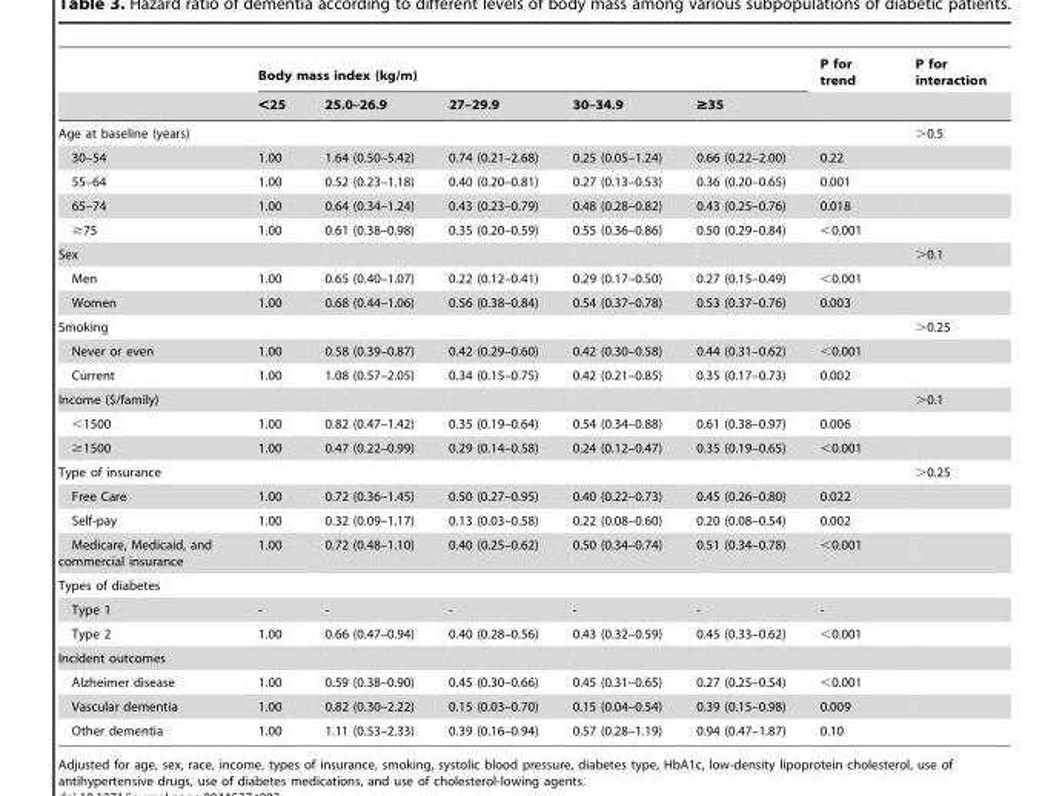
<table><thead><tr><td rowspan="2"></td><td colspan="5">Body mass index (kg/m)</td><td rowspan="2">P for trend</td><td rowspan="2">P for interaction</td></tr><tr><td>&lt;25</td><td>25.0–26.9</td><td>27–29.9</td><td>30–34.9</td><td>≥35</td></tr></thead><tbody><tr><td>Age at baseline (years)</td><td></td><td></td><td></td><td></td><td></td><td></td><td>&gt;0.5</td></tr><tr><td>30–54</td><td>1.00</td><td>1.64 (0.50–5.42)</td><td>0.74 (0.21–2.68)</td><td>0.25 (0.05–1.24)</td><td>0.66 (0.22–2.00)</td><td>0.22</td><td></td></tr><tr><td>55–64</td><td>1.00</td><td>0.52 (0.23–1.18)</td><td>0.40 (0.20–0.81)</td><td>0.27 (0.13–0.53)</td><td>0.36 (0.20–0.65)</td><td>0.001</td><td></td></tr><tr><td>65–74</td><td>1.00</td><td>0.64 (0.34–1.24)</td><td>0.43 (0.23–0.79)</td><td>0.48 (0.28–0.82)</td><td>0.43 (0.25–0.76)</td><td>0.018</td><td></td></tr><tr><td>≥75</td><td>1.00</td><td>0.61 (0.38–0.98)</td><td>0.35 (0.20–0.59)</td><td>0.55 (0.36–0.86)</td><td>0.50 (0.29–0.84)</td><td>&lt;0.001</td><td></td></tr><tr><td>Sex</td><td></td><td></td><td></td><td></td><td></td><td></td><td>&gt;0.1</td></tr><tr><td>Men</td><td>1.00</td><td>0.65 (0.40–1.07)</td><td>0.22 (0.12–0.41)</td><td>0.29 (0.17–0.50)</td><td>0.27 (0.15–0.49)</td><td>&lt;0.001</td><td></td></tr><tr><td>Women</td><td>1.00</td><td>0.68 (0.44–1.06)</td><td>0.56 (0.38–0.84)</td><td>0.54 (0.37–0.78)</td><td>0.53 (0.37–0.76)</td><td>0.003</td><td></td></tr><tr><td>Smoking</td><td></td><td></td><td></td><td></td><td></td><td></td><td>&gt;0.25</td></tr><tr><td>Never or even</td><td>1.00</td><td>0.58 (0.39–0.87)</td><td>0.42 (0.29–0.60)</td><td>0.42 (0.30–0.58)</td><td>0.44 (0.31–0.62)</td><td>&lt;0.001</td><td></td></tr><tr><td>Current</td><td>1.00</td><td>1.08 (0.57–2.05)</td><td>0.34 (0.15–0.75)</td><td>0.42 (0.21–0.85)</td><td>0.35 (0.17–0.73)</td><td>0.002</td><td></td></tr><tr><td>Income ($/family)</td><td></td><td></td><td></td><td></td><td></td><td></td><td>&gt;0.1</td></tr><tr><td>&lt;1500</td><td>1.00</td><td>0.82 (0.47–1.42)</td><td>0.35 (0.19–0.64)</td><td>0.54 (0.34–0.88)</td><td>0.61 (0.38–0.97)</td><td>0.006</td><td></td></tr><tr><td>≥1500</td><td>1.00</td><td>0.47 (0.22–0.99)</td><td>0.29 (0.14–0.58)</td><td>0.24 (0.12–0.47)</td><td>0.35 (0.19–0.65)</td><td>&lt;0.001</td><td></td></tr><tr><td>Type of insurance</td><td></td><td></td><td></td><td></td><td></td><td></td><td>&gt;0.25</td></tr><tr><td>Free Care</td><td>1.00</td><td>0.72 (0.36–1.45)</td><td>0.50 (0.27–0.95)</td><td>0.40 (0.22–0.73)</td><td>0.45 (0.26–0.80)</td><td>0.022</td><td></td></tr><tr><td>Self-pay</td><td>1.00</td><td>0.32 (0.09–1.17)</td><td>0.13 (0.03–0.58)</td><td>0.22 (0.08–0.60)</td><td>0.20 (0.08–0.54)</td><td>0.002</td><td></td></tr><tr><td>Medicare, Medicaid, and commercial insurance</td><td>1.00</td><td>0.72 (0.48–1.10)</td><td>0.40 (0.25–0.62)</td><td>0.50 (0.34–0.74)</td><td>0.51 (0.34–0.78)</td><td>&lt;0.001</td><td></td></tr><tr><td colspan="8">Types of diabetes</td></tr><tr><td>Type 1</td><td>-</td><td>-</td><td>-</td><td>-</td><td>-</td><td>-</td><td></td></tr><tr><td>Type 2</td><td>1.00</td><td>0.66 (0.47–0.94)</td><td>0.40 (0.28–0.56)</td><td>0.43 (0.32–0.59)</td><td>0.45 (0.33–0.62)</td><td>&lt;0.001</td><td></td></tr><tr><td colspan="8">Incident outcomes</td></tr><tr><td>Alzheimer disease</td><td>1.00</td><td>0.59 (0.38–0.90)</td><td>0.45 (0.30–0.66)</td><td>0.45 (0.31–0.65)</td><td>0.27 (0.25–0.54)</td><td>&lt;0.001</td><td></td></tr><tr><td>Vascular dementia</td><td>1.00</td><td>0.82 (0.30–2.22)</td><td>0.15 (0.03–0.70)</td><td>0.15 (0.04–0.54)</td><td>0.39 (0.15–0.98)</td><td>0.009</td><td></td></tr><tr><td>Other dementia</td><td>1.00</td><td>1.11 (0.53–2.33)</td><td>0.39 (0.16–0.94)</td><td>0.57 (0.28–1.19)</td><td>0.94 (0.47–1.87)</td><td>0.10</td><td></td></tr></tbody></table>